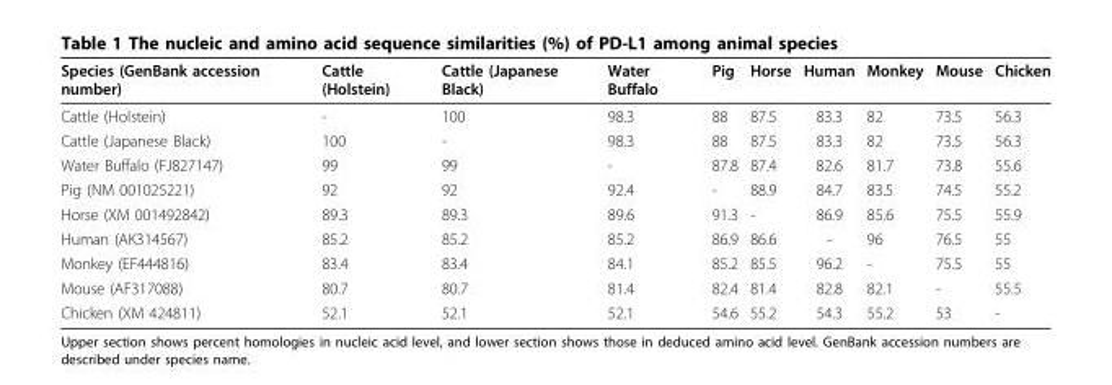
<table><thead><tr><td>Species (GenBank accession number)</td><td>Cattle (Holstein)</td><td>Cattle (Japanese Black)</td><td>Water Buffalo</td><td>Pig</td><td>Horse</td><td>Human</td><td>Monkey</td><td>Mouse</td><td>Chicken</td></tr></thead><tbody><tr><td>Cattle (Holstein)</td><td>-</td><td>100</td><td>98.3</td><td>88</td><td>87.5</td><td>83.3</td><td>82</td><td>73.5</td><td>56.3</td></tr><tr><td>Cattle (Japanese Black)</td><td>100</td><td>-</td><td>98.3</td><td>88</td><td>87.5</td><td>83.3</td><td>82</td><td>73.5</td><td>56.3</td></tr><tr><td>Water Buffalo (FJ827147)</td><td>99</td><td>99</td><td>-</td><td>87.8</td><td>87.4</td><td>82.6</td><td>81.7</td><td>73.8</td><td>55.6</td></tr><tr><td>Pig (NM 001025221)</td><td>92</td><td>92</td><td>92.4</td><td>-</td><td>88.9</td><td>84.7</td><td>83.5</td><td>74.5</td><td>55.2</td></tr><tr><td>Horse (XM 001492842)</td><td>89.3</td><td>89.3</td><td>89.6</td><td>91.3</td><td>-</td><td>86.9</td><td>85.6</td><td>75.5</td><td>55.9</td></tr><tr><td>Human (AK314567)</td><td>85.2</td><td>85.2</td><td>85.2</td><td>86.9</td><td>86.6</td><td>-</td><td>96</td><td>76.5</td><td>55</td></tr><tr><td>Monkey (EF444816)</td><td>83.4</td><td>83.4</td><td>84.1</td><td>85.2</td><td>85.5</td><td>96.2</td><td>-</td><td>75.5</td><td>55</td></tr><tr><td>Mouse (AF317088)</td><td>80.7</td><td>80.7</td><td>81.4</td><td>82.4</td><td>81.4</td><td>82.8</td><td>82.1</td><td>-</td><td>55.5</td></tr><tr><td>Chicken (XM 424811)</td><td>52.1</td><td>52.1</td><td>52.1</td><td>54.6</td><td>55.2</td><td>54.3</td><td>55.2</td><td>53</td><td>-</td></tr></tbody></table>